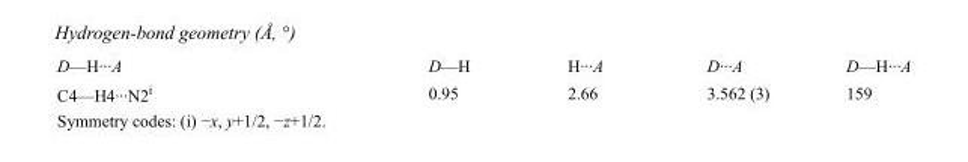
<table><tbody><tr><td>D—H···A</td><td>D—H</td><td>H···A</td><td>D···A</td><td>D—H···A</td></tr><tr><td>C4—H4···N2<sup>i</sup></td><td>0.95</td><td>2.66</td><td>3.562 (3)</td><td>159</td></tr></tbody></table>